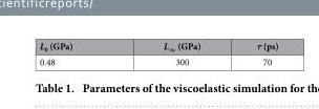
<table><thead><tr><td>L<sub>0</sub> (GPa)</td><td>L<sub>∞</sub> (GPa)</td><td>τ (ps)</td></tr></thead><tbody><tr><td>0.48</td><td>300</td><td>70</td></tr></tbody></table>